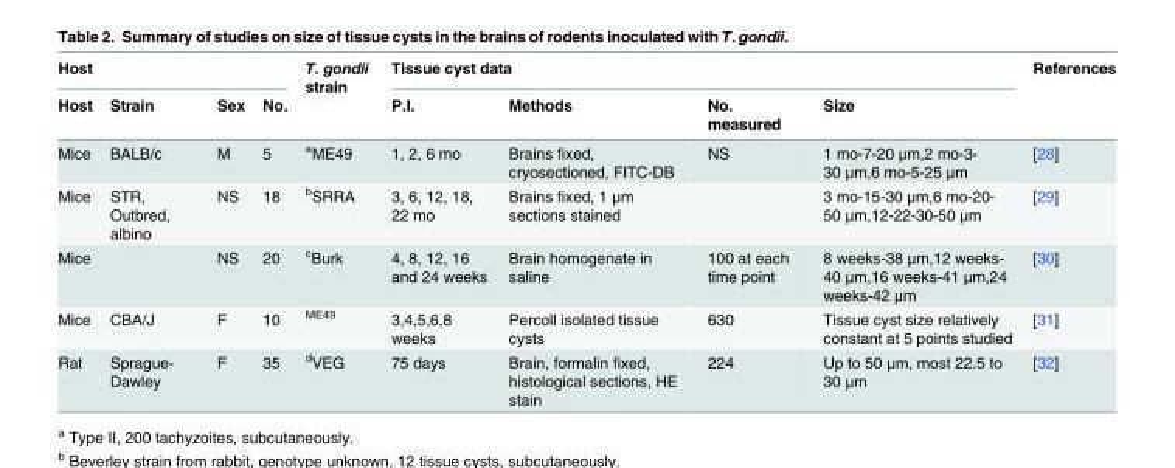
<table><thead><tr><td colspan="4">Host</td><td rowspan="2">T. gondii strain</td><td colspan="4">Tissue cyst data</td><td rowspan="2">References</td></tr><tr><td>Host</td><td>Strain</td><td>Sex</td><td>No.</td><td>P.I.</td><td>Methods</td><td>No. measured</td><td>Size</td></tr></thead><tbody><tr><td>Mice</td><td>BALB/c</td><td>M</td><td>5</td><td><sup>a</sup>ME49</td><td>1, 2, 6 mo</td><td>Brains fixed, cryosectioned, FITC-DB</td><td>NS</td><td>1 mo-7-20 μm,2 mo-3- 30 μm,6 mo-5-25 μm</td><td>[28]</td></tr><tr><td>Mice</td><td>STR, Outbred, albino</td><td>NS</td><td>18</td><td><sup>b</sup>SRRA</td><td>3, 6, 12, 18, 22 mo</td><td>Brains fixed, 1 μm sections stained</td><td></td><td>3 mo-15-30 μm,6 mo-20- 50 μm,12-22-30-50 μm</td><td>[29]</td></tr><tr><td>Mice</td><td></td><td>NS</td><td>20</td><td><sup>c</sup>Burk</td><td>4, 8, 12, 16 and 24 weeks</td><td>Brain homogenate in saline</td><td>100 at each time point</td><td>8 weeks-38 μm,12 weeks- 40 μm,16 weeks-41 μm,24 weeks-42 μm</td><td>[30]</td></tr><tr><td>Mice</td><td>CBA/J</td><td>F</td><td>10</td><td><sup>ME49</sup></td><td>3,4,5,6,8 weeks</td><td>Percoll isolated tissue cysts</td><td>630</td><td>Tissue cyst size relatively constant at 5 points studied</td><td>[31]</td></tr><tr><td>Rat</td><td>Sprague- Dawley</td><td>F</td><td>35</td><td><sup>d</sup>VEG</td><td>75 days</td><td>Brain, formalin fixed, histological sections, HE stain</td><td>224</td><td>Up to 50 μm, most 22.5 to 30 μm</td><td>[32]</td></tr></tbody></table>